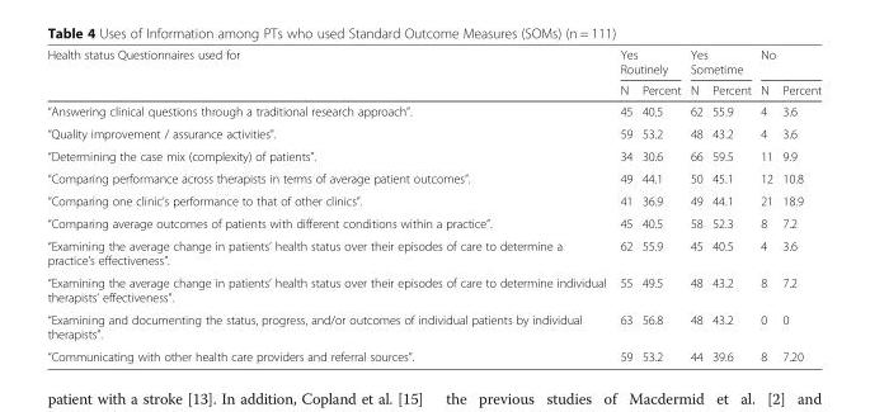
<table><thead><tr><td rowspan="2">Health status Questionnaires used for</td><td colspan="2">Yes Routinely</td><td colspan="2">Yes Sometime</td><td colspan="2">No</td></tr><tr><td>N</td><td>Percent</td><td>N</td><td>Percent</td><td>N</td><td>Percent</td></tr></thead><tbody><tr><td>“Answering clinical questions through a traditional research approach”.</td><td>45</td><td>40.5</td><td>62</td><td>55.9</td><td>4</td><td>3.6</td></tr><tr><td>“Quality improvement / assurance activities”.</td><td>59</td><td>53.2</td><td>48</td><td>43.2</td><td>4</td><td>3.6</td></tr><tr><td>“Determining the case mix (complexity) of patients”.</td><td>34</td><td>30.6</td><td>66</td><td>59.5</td><td>11</td><td>9.9</td></tr><tr><td>“Comparing performance across therapists in terms of average patient outcomes”.</td><td>49</td><td>44.1</td><td>50</td><td>45.1</td><td>12</td><td>10.8</td></tr><tr><td>“Comparing one clinic’s performance to that of other clinics”.</td><td>41</td><td>36.9</td><td>49</td><td>44.1</td><td>21</td><td>18.9</td></tr><tr><td>“Comparing average outcomes of patients with different conditions within a practice”.</td><td>45</td><td>40.5</td><td>58</td><td>52.3</td><td>8</td><td>7.2</td></tr><tr><td>“Examining the average change in patients’ health status over their episodes of care to determine a practice’s effectiveness”.</td><td>62</td><td>55.9</td><td>45</td><td>40.5</td><td>4</td><td>3.6</td></tr><tr><td>“Examining the average change in patients’ health status over their episodes of care to determine individual therapists’ effectiveness”.</td><td>55</td><td>49.5</td><td>48</td><td>43.2</td><td>8</td><td>7.2</td></tr><tr><td>“Examining and documenting the status, progress, and/or outcomes of individual patients by individual therapists”.</td><td>63</td><td>56.8</td><td>48</td><td>43.2</td><td>0</td><td>0</td></tr><tr><td>“Communicating with other health care providers and referral sources”.</td><td>59</td><td>53.2</td><td>44</td><td>39.6</td><td>8</td><td>7.20</td></tr></tbody></table>